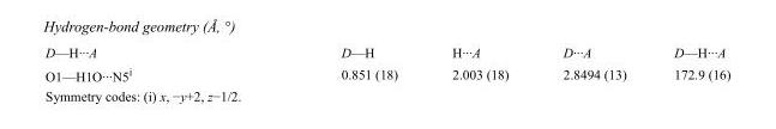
<table><tbody><tr><td>D—H···A</td><td>D—H</td><td>H···A</td><td>D···A</td><td>D—H···A</td></tr><tr><td>O1—H1O···N5<sup>i</sup></td><td>0.851 (18)</td><td>2.003 (18)</td><td>2.8494 (13)</td><td>172.9 (16)</td></tr></tbody></table>